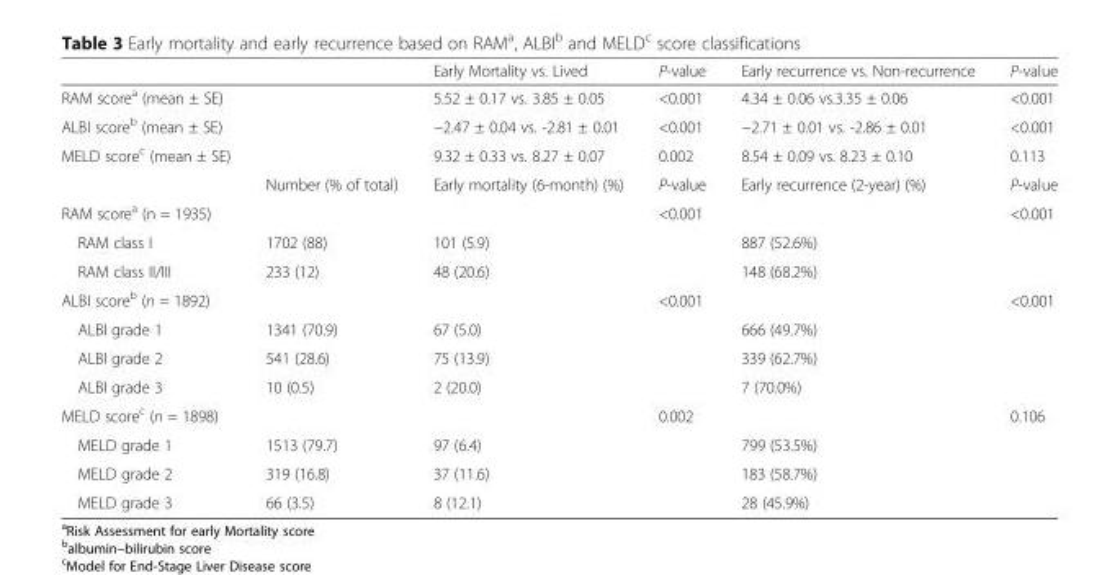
<table><thead><tr><td></td><td></td><td>Early Mortality vs. Lived</td><td>P-value</td><td>Early recurrence vs. Non-recurrence</td><td>P-value</td></tr></thead><tbody><tr><td>RAM score<sup>a</sup> (mean ± SE)</td><td></td><td>5.52 ± 0.17 vs. 3.85 ± 0.05</td><td>&lt;0.001</td><td>4.34 ± 0.06 vs.3.35 ± 0.06</td><td>&lt;0.001</td></tr><tr><td>ALBI score<sup>b</sup> (mean ± SE)</td><td></td><td>−2.47 ± 0.04 vs. -2.81 ± 0.01</td><td>&lt;0.001</td><td>−2.71 ± 0.01 vs. -2.86 ± 0.01</td><td>&lt;0.001</td></tr><tr><td rowspan="2">MELD score<sup>c</sup> (mean ± SE)</td><td></td><td>9.32 ± 0.33 vs. 8.27 ± 0.07</td><td>0.002</td><td>8.54 ± 0.09 vs. 8.23 ± 0.10</td><td>0.113</td></tr><tr><td>Number (% of total)</td><td>Early mortality (6-month) (%)</td><td>P-value</td><td>Early recurrence (2-year) (%)</td><td>P-value</td></tr><tr><td>RAM score<sup>a</sup> (n = 1935)</td><td></td><td></td><td>&lt;0.001</td><td></td><td>&lt;0.001</td></tr><tr><td>RAM class I</td><td>1702 (88)</td><td>101 (5.9)</td><td></td><td>887 (52.6%)</td><td></td></tr><tr><td>RAM class II/III</td><td>233 (12)</td><td>48 (20.6)</td><td></td><td>148 (68.2%)</td><td></td></tr><tr><td>ALBI score<sup>b</sup> (n = 1892)</td><td></td><td></td><td>&lt;0.001</td><td></td><td>&lt;0.001</td></tr><tr><td>ALBI grade 1</td><td>1341 (70.9)</td><td>67 (5.0)</td><td></td><td>666 (49.7%)</td><td></td></tr><tr><td>ALBI grade 2</td><td>541 (28.6)</td><td>75 (13.9)</td><td></td><td>339 (62.7%)</td><td></td></tr><tr><td>ALBI grade 3</td><td>10 (0.5)</td><td>2 (20.0)</td><td></td><td>7 (70.0%)</td><td></td></tr><tr><td>MELD score<sup>c</sup> (n = 1898)</td><td></td><td></td><td>0.002</td><td></td><td>0.106</td></tr><tr><td>MELD grade 1</td><td>1513 (79.7)</td><td>97 (6.4)</td><td></td><td>799 (53.5%)</td><td></td></tr><tr><td>MELD grade 2</td><td>319 (16.8)</td><td>37 (11.6)</td><td></td><td>183 (58.7%)</td><td></td></tr><tr><td>MELD grade 3</td><td>66 (3.5)</td><td>8 (12.1)</td><td></td><td>28 (45.9%)</td><td></td></tr></tbody></table>